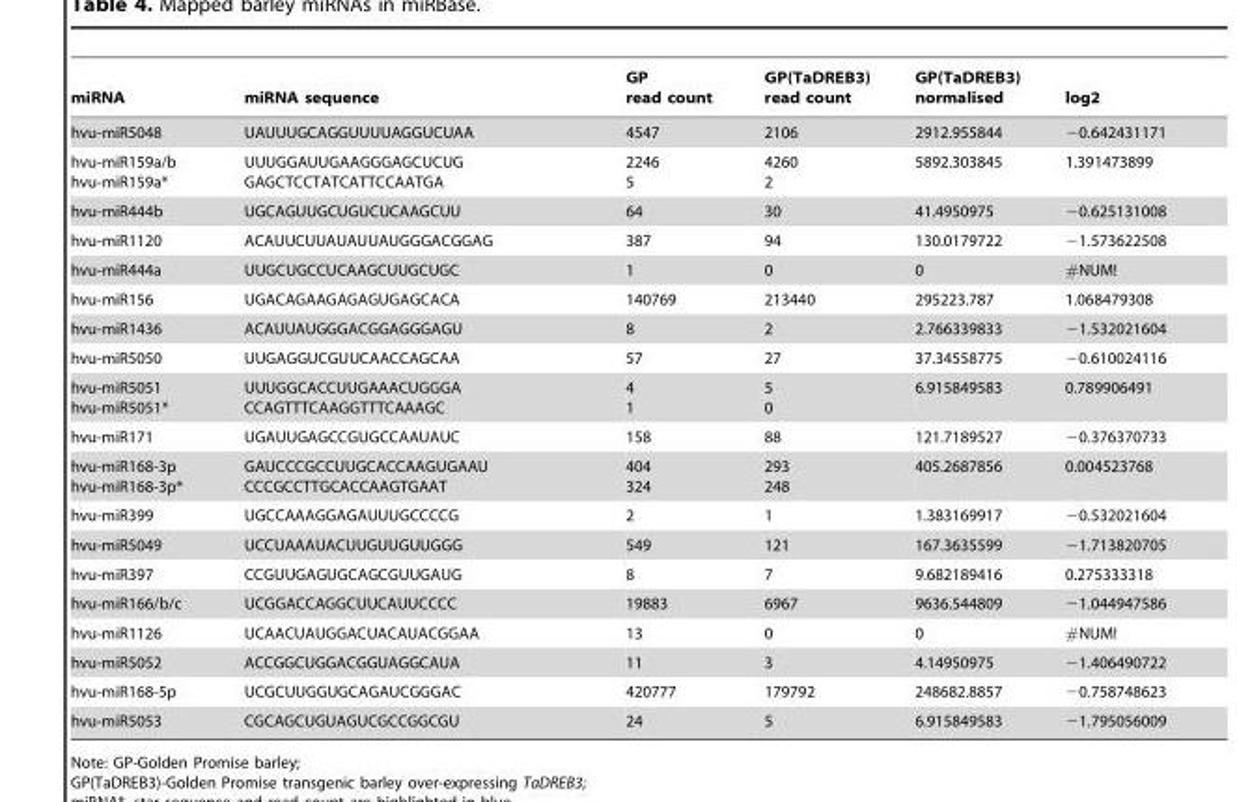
<table><thead><tr><td>miRNA</td><td>miRNA sequence</td><td>GP read count</td><td>GP(TaDREB3) read count</td><td>GP(TaDREB3) normalised</td><td>log2</td></tr></thead><tbody><tr><td>hvu-miR5048</td><td>UAUUUGCAGGUUUUAGGUCUAA</td><td>4547</td><td>2106</td><td>2912.955844</td><td>−0.642431171</td></tr><tr><td>hvu-miR159a/b hvu-miR159a*</td><td>UUUGGAUUGAAGGGAGCUCUG GAGCTCCTATCATTCCAATGA</td><td>2246 5</td><td>4260 2</td><td>5892.303845</td><td>1.391473899</td></tr><tr><td>hvu-miR444b</td><td>UGCAGUUGCUGUCUCAAGCUU</td><td>64</td><td>30</td><td>41.4950975</td><td>−0.625131008</td></tr><tr><td>hvu-miR1120</td><td>ACAUUCUUAUAUUAUGGGACGGAG</td><td>387</td><td>94</td><td>130.0179722</td><td>−1.573622508</td></tr><tr><td>hvu-miR444a</td><td>UUGCUGCCUCAAGCUUGCUGC</td><td>1</td><td>0</td><td>0</td><td>#NUM!</td></tr><tr><td>hvu-miR156</td><td>UGACAGAAGAGAGUGAGCACA</td><td>140769</td><td>213440</td><td>295223.787</td><td>1.068479308</td></tr><tr><td>hvu-miR1436</td><td>ACAUUAUGGGACGGAGGGAGU</td><td>8</td><td>2</td><td>2.766339833</td><td>−1.532021604</td></tr><tr><td>hvu-miR5050</td><td>UUGAGGUCGUUCAACCAGCAA</td><td>57</td><td>27</td><td>37.34558775</td><td>−0.610024116</td></tr><tr><td>hvu-miR5051 hvu-miR5051*</td><td>UUUGGCACCUUGAAACUGGGA CCAGTTTCAAGGTTTCAAAGC</td><td>4 1</td><td>5 0</td><td>6.915849583</td><td>0.789906491</td></tr><tr><td>hvu-miR171</td><td>UGAUUGAGCCGUGCCAAUAUC</td><td>158</td><td>88</td><td>121.7189527</td><td>−0.376370733</td></tr><tr><td>hvu-miR168-3p hvu-miR168-3p*</td><td>GAUCCCGCCUUGCACCAAGUGAAU CCCGCCTTGCACCAAGTGAAT</td><td>404 324</td><td>293 248</td><td>405.2687856</td><td>0.004523768</td></tr><tr><td>hvu-miR399</td><td>UGCCAAAGGAGAUUUGCCCCG</td><td>2</td><td>1</td><td>1.383169917</td><td>−0.532021604</td></tr><tr><td>hvu-miR5049</td><td>UCCUAAAUACUUGUUGUUGGG</td><td>549</td><td>121</td><td>167.3635599</td><td>−1.713820705</td></tr><tr><td>hvu-miR397</td><td>CCGUUGAGUGCAGCGUUGAUG</td><td>8</td><td>7</td><td>9.682189416</td><td>0.275333318</td></tr><tr><td>hvu-miR166/b/c</td><td>UCGGACCAGGCUUCAUUCCCC</td><td>19883</td><td>6967</td><td>9636.544809</td><td>−1.044947586</td></tr><tr><td>hvu-miR1126</td><td>UCAACUAUGGACUACAUACGGAA</td><td>13</td><td>0</td><td>0</td><td>#NUM!</td></tr><tr><td>hvu-miR5052</td><td>ACCGGCUGGACGGUAGGCAUA</td><td>11</td><td>3</td><td>4.14950975</td><td>−1.406490722</td></tr><tr><td>hvu-miR168-5p</td><td>UCGCUUGGUGCAGAUCGGGAC</td><td>420777</td><td>179792</td><td>248682.8857</td><td>−0.758748623</td></tr><tr><td>hvu-miR5053</td><td>CGCAGCUGUAGUCGCCGGCGU</td><td>24</td><td>5</td><td>6.915849583</td><td>−1.795056009</td></tr></tbody></table>